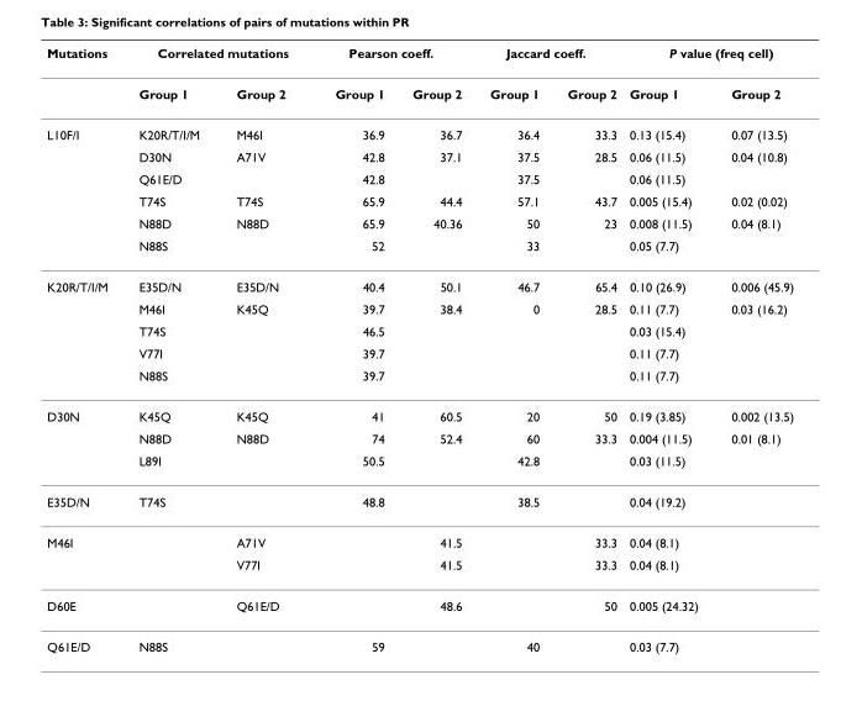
<table><thead><tr><td rowspan="2">Mutations</td><td colspan="2">Correlated mutations</td><td colspan="2">Pearson coeff.</td><td colspan="2">Jaccard coeff.</td><td colspan="2">P value (freq cell)</td></tr><tr><td>Group 1</td><td>Group 2</td><td>Group 1</td><td>Group 2</td><td>Group 1</td><td>Group 2</td><td>Group 1</td><td>Group 2</td></tr></thead><tbody><tr><td rowspan="6">L10F/I</td><td>K20R/T/I/M</td><td>M46I</td><td>36.9</td><td>36.7</td><td>36.4</td><td>33.3</td><td>0.13 (15.4)</td><td>0.07 (13.5)</td></tr><tr><td>D30N</td><td>A71V</td><td>42.8</td><td>37.1</td><td>37.5</td><td>28.5</td><td>0.06 (11.5)</td><td>0.04 (10.8)</td></tr><tr><td>Q61E/D</td><td></td><td>42.8</td><td></td><td>37.5</td><td></td><td>0.06 (11.5)</td><td></td></tr><tr><td>T74S</td><td>T74S</td><td>65.9</td><td>44.4</td><td>57.1</td><td>43.7</td><td>0.005 (15.4)</td><td>0.02 (0.02)</td></tr><tr><td>N88D</td><td>N88D</td><td>65.9</td><td>40.36</td><td>50</td><td>23</td><td>0.008 (11.5)</td><td>0.04 (8.1)</td></tr><tr><td>N88S</td><td></td><td>52</td><td></td><td>33</td><td></td><td>0.05 (7.7)</td><td></td></tr><tr><td rowspan="5">K20R/T/I/M</td><td>E35D/N</td><td>E35D/N</td><td>40.4</td><td>50.1</td><td>46.7</td><td>65.4</td><td>0.10 (26.9)</td><td>0.006 (45.9)</td></tr><tr><td>M46I</td><td>K45Q</td><td>39.7</td><td>38.4</td><td>0</td><td>28.5</td><td>0.11 (7.7)</td><td>0.03 (16.2)</td></tr><tr><td>T74S</td><td></td><td>46.5</td><td></td><td></td><td></td><td>0.03 (15.4)</td><td></td></tr><tr><td>V77I</td><td></td><td>39.7</td><td></td><td></td><td></td><td>0.11 (7.7)</td><td></td></tr><tr><td>N88S</td><td></td><td>39.7</td><td></td><td></td><td></td><td>0.11 (7.7)</td><td></td></tr><tr><td rowspan="3">D30N</td><td>K45Q</td><td>K45Q</td><td>41</td><td>60.5</td><td>20</td><td>50</td><td>0.19 (3.85)</td><td>0.002 (13.5)</td></tr><tr><td>N88D</td><td>N88D</td><td>74</td><td>52.4</td><td>60</td><td>33.3</td><td>0.004 (11.5)</td><td>0.01 (8.1)</td></tr><tr><td>L89I</td><td></td><td>50.5</td><td></td><td>42.8</td><td></td><td>0.03 (11.5)</td><td></td></tr><tr><td>E35D/N</td><td>T74S</td><td></td><td>48.8</td><td></td><td>38.5</td><td></td><td>0.04 (19.2)</td><td></td></tr><tr><td rowspan="2">M46I</td><td></td><td>A71V</td><td></td><td>41.5</td><td></td><td>33.3</td><td>0.04 (8.1)</td><td></td></tr><tr><td></td><td>V77I</td><td></td><td>41.5</td><td></td><td>33.3</td><td>0.04 (8.1)</td><td></td></tr><tr><td>D60E</td><td></td><td>Q61E/D</td><td></td><td>48.6</td><td></td><td>50</td><td>0.005 (24.32)</td><td></td></tr><tr><td>Q61E/D</td><td>N88S</td><td></td><td>59</td><td></td><td>40</td><td></td><td>0.03 (7.7)</td><td></td></tr></tbody></table>